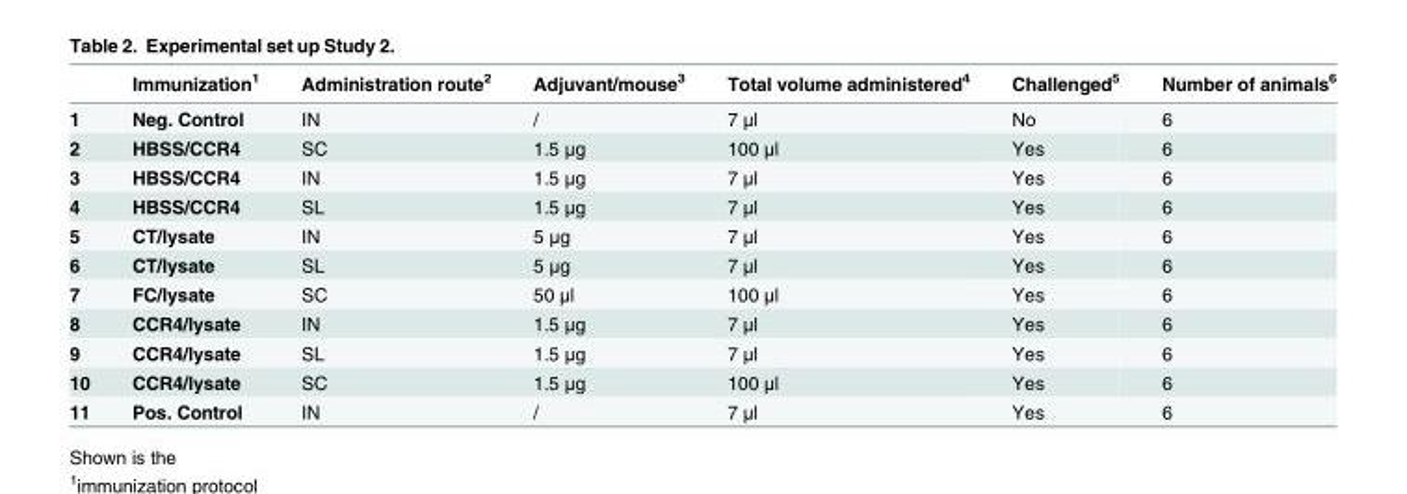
<table><thead><tr><td></td><td>Immunization<sup>1</sup></td><td>Administration route<sup>2</sup></td><td>Adjuvant/mouse<sup>3</sup></td><td>Total volume administered<sup>4</sup></td><td>Challenged<sup>5</sup></td><td>Number of animals<sup>6</sup></td></tr></thead><tbody><tr><td>1</td><td>Neg. Control</td><td>IN</td><td>/</td><td>7 μl</td><td>No</td><td>6</td></tr><tr><td>2</td><td>HBSS/CCR4</td><td>SC</td><td>1.5 μg</td><td>100 μl</td><td>Yes</td><td>6</td></tr><tr><td>3</td><td>HBSS/CCR4</td><td>IN</td><td>1.5 μg</td><td>7 μl</td><td>Yes</td><td>6</td></tr><tr><td>4</td><td>HBSS/CCR4</td><td>SL</td><td>1.5 μg</td><td>7 μl</td><td>Yes</td><td>6</td></tr><tr><td>5</td><td>CT/lysate</td><td>IN</td><td>5 μg</td><td>7 μl</td><td>Yes</td><td>6</td></tr><tr><td>6</td><td>CT/lysate</td><td>SL</td><td>5 μg</td><td>7 μl</td><td>Yes</td><td>6</td></tr><tr><td>7</td><td>FC/lysate</td><td>SC</td><td>50 μl</td><td>100 μl</td><td>Yes</td><td>6</td></tr><tr><td>8</td><td>CCR4/lysate</td><td>IN</td><td>1.5 μg</td><td>7 μl</td><td>Yes</td><td>6</td></tr><tr><td>9</td><td>CCR4/lysate</td><td>SL</td><td>1.5 μg</td><td>7 μl</td><td>Yes</td><td>6</td></tr><tr><td>10</td><td>CCR4/lysate</td><td>SC</td><td>1.5 μg</td><td>100 μl</td><td>Yes</td><td>6</td></tr><tr><td>11</td><td>Pos. Control</td><td>IN</td><td>/</td><td>7 μl</td><td>Yes</td><td>6</td></tr></tbody></table>